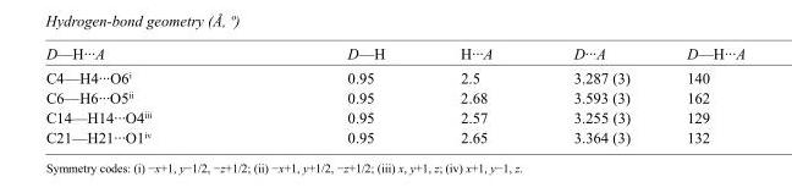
<table><tbody><tr><td>D—H···A</td><td>D—H</td><td>H···A</td><td>D···A</td><td>D—H···A</td></tr><tr><td>C4—H4···O6<sup>i</sup></td><td>0.95</td><td>2.5</td><td>3.287 (3)</td><td>140</td></tr><tr><td>C6—H6···O5<sup>ii</sup></td><td>0.95</td><td>2.68</td><td>3.593 (3)</td><td>162</td></tr><tr><td>C14—H14···O4<sup>iii</sup></td><td>0.95</td><td>2.57</td><td>3.255 (3)</td><td>129</td></tr><tr><td>C21—H21···O1<sup>iv</sup></td><td>0.95</td><td>2.65</td><td>3.364 (3)</td><td>132</td></tr></tbody></table>